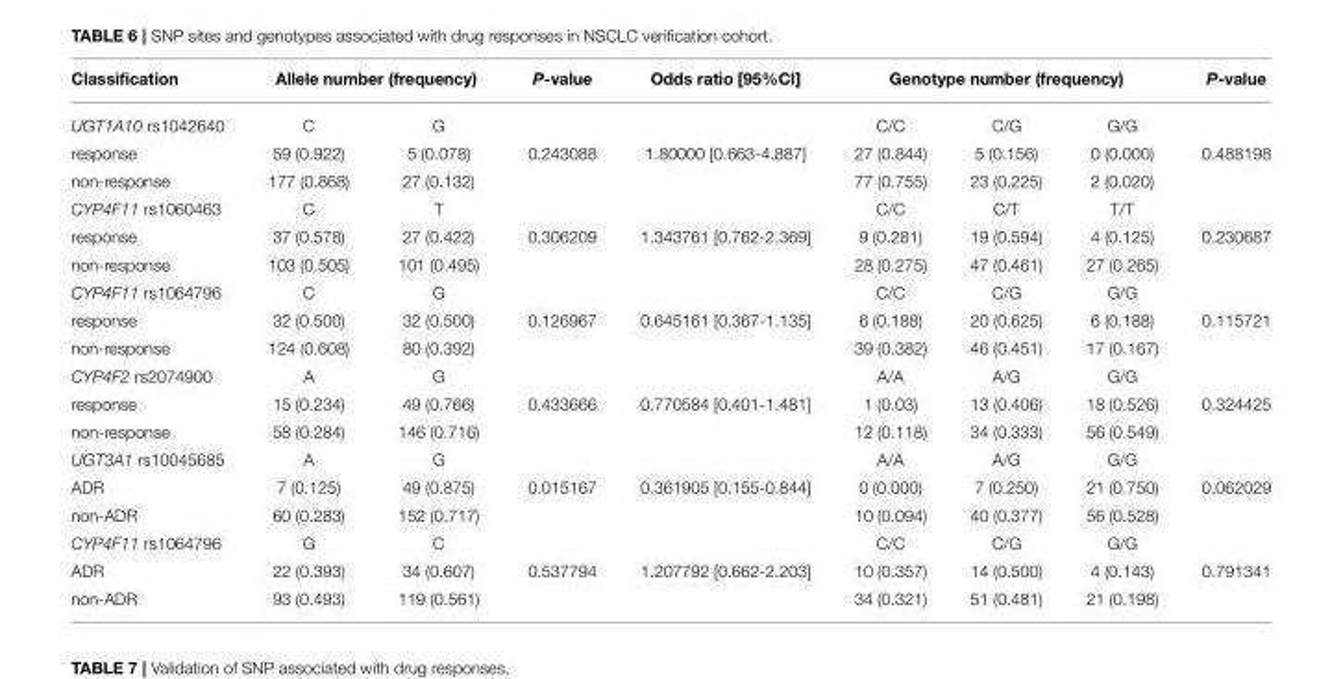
<table><thead><tr><td rowspan="2">Classification UGT1A10 rs1042640</td><td colspan="2">Allele number (frequency)</td><td rowspan="2">P-value</td><td rowspan="2">Odds ratio [95%CI]</td><td colspan="3">Genotype number (frequency)</td><td rowspan="2">P-value</td></tr><tr><td>C</td><td>G</td><td>C/C</td><td>C/G</td><td>G/G</td></tr></thead><tbody><tr><td>response</td><td>59 (0.922)</td><td>5 (0.078)</td><td>0.243088</td><td>1.80000 [0.663-4.887]</td><td>27 (0.844)</td><td>5 (0.156)</td><td>0 (0.000)</td><td>0.488198</td></tr><tr><td>non-response</td><td>177 (0.868)</td><td>27 (0.132)</td><td></td><td></td><td>77 (0.755)</td><td>23 (0.225)</td><td>2 (0.020)</td><td></td></tr><tr><td>CYP4F11 rs1060463</td><td>C</td><td>T</td><td></td><td></td><td>C/C</td><td>C/T</td><td>T/T</td><td></td></tr><tr><td>response</td><td>37 (0.578)</td><td>27 (0.422)</td><td>0.306209</td><td>1.343761 [0.762-2.369]</td><td>9 (0.281)</td><td>19 (0.594)</td><td>4 (0.125)</td><td>0.230687</td></tr><tr><td>non-response</td><td>103 (0.505)</td><td>101 (0.495)</td><td></td><td></td><td>28 (0.275)</td><td>47 (0.461)</td><td>27 (0.265)</td><td></td></tr><tr><td>CYP4F11 rs1064796</td><td>C</td><td>G</td><td></td><td></td><td>C/C</td><td>C/G</td><td>G/G</td><td></td></tr><tr><td>response</td><td>32 (0.500)</td><td>32 (0.500)</td><td>0.126967</td><td>0.645161 [0.367-1.135]</td><td>6 (0.188)</td><td>20 (0.625)</td><td>6 (0.188)</td><td>0.115721</td></tr><tr><td>non-response</td><td>124 (0.608)</td><td>80 (0.392)</td><td></td><td></td><td>39 (0.382)</td><td>46 (0.451)</td><td>17 (0.167)</td><td></td></tr><tr><td>CYP4F2 rs2074900</td><td>A</td><td>G</td><td></td><td></td><td>A/A</td><td>A/G</td><td>G/G</td><td></td></tr><tr><td>response</td><td>15 (0.234)</td><td>49 (0.766)</td><td>0.433666</td><td>0.770584 [0.401-1.481]</td><td>1 (0.03)</td><td>13 (0.406)</td><td>18 (0.526)</td><td>0.324425</td></tr><tr><td>non-response</td><td>58 (0.284)</td><td>146 (0.716)</td><td></td><td></td><td>12 (0.118)</td><td>34 (0.333)</td><td>56 (0.549)</td><td></td></tr><tr><td>UGT3A1 rs10045685</td><td>A</td><td>G</td><td></td><td></td><td>A/A</td><td>A/G</td><td>G/G</td><td></td></tr><tr><td>ADR</td><td>7 (0.125)</td><td>49 (0.875)</td><td>0.015167</td><td>0.361905 [0.155-0.844]</td><td>0 (0.000)</td><td>7 (0.250)</td><td>21 (0.750)</td><td>0.062029</td></tr><tr><td>non-ADR</td><td>60 (0.283)</td><td>152 (0.717)</td><td></td><td></td><td>10 (0.094)</td><td>40 (0.377)</td><td>56 (0.528)</td><td></td></tr><tr><td>CYP4F11 rs1064796</td><td>G</td><td>C</td><td></td><td></td><td>C/C</td><td>C/G</td><td>G/G</td><td></td></tr><tr><td>ADR</td><td>22 (0.393)</td><td>34 (0.607)</td><td>0.537794</td><td>1.207792 [0.662-2.203]</td><td>10 (0.357)</td><td>14 (0.500)</td><td>4 (0.143)</td><td>0.791341</td></tr><tr><td>non-ADR</td><td>93 (0.493)</td><td>119 (0.561)</td><td></td><td></td><td>34 (0.321)</td><td>51 (0.481)</td><td>21 (0.198)</td><td></td></tr></tbody></table>